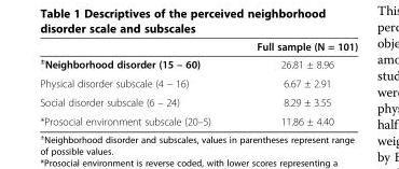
<table><thead><tr><td></td><td>Full sample (N = 101)</td></tr></thead><tbody><tr><td><sup>±</sup>Neighborhood disorder (15 – 60)</td><td>26.81 ± 8.96</td></tr><tr><td>Physical disorder subscale (4 – 16)</td><td>6.67 ± 2.91</td></tr><tr><td>Social disorder subscale (6 – 24)</td><td>8.29 ± 3.55</td></tr><tr><td>*Prosocial environment subscale (20–5)</td><td>11.86 ± 4.40</td></tr></tbody></table>